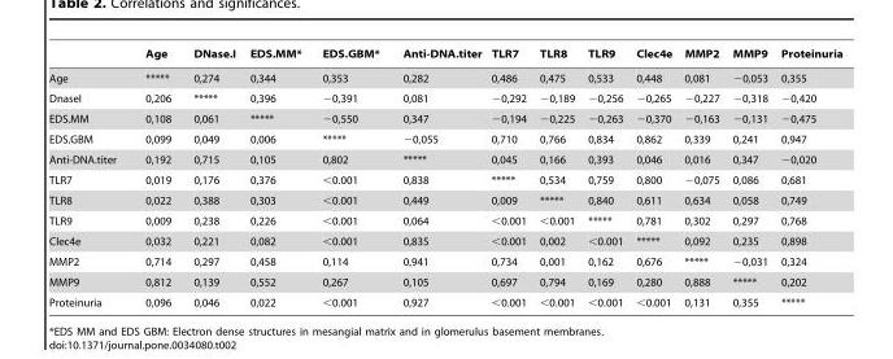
<table><thead><tr><td></td><td>Age</td><td>DNase.I</td><td>EDS.MM*</td><td>EDS.GBM*</td><td>Anti-DNA.titer</td><td>TLR7</td><td>TLR8</td><td>TLR9</td><td>Clec4e</td><td>MMP2</td><td>MMP9</td><td>Proteinuria</td></tr></thead><tbody><tr><td>Age</td><td>*****</td><td>0,274</td><td>0,344</td><td>0,353</td><td>0,282</td><td>0,486</td><td>0,475</td><td>0,533</td><td>0,448</td><td>0,081</td><td>−0,053</td><td>0,355</td></tr><tr><td>DnaseI</td><td>0,206</td><td>*****</td><td>0,396</td><td>−0,391</td><td>0,081</td><td>−0,292</td><td>−0,189</td><td>−0,256</td><td>−0,265</td><td>−0,227</td><td>−0,318</td><td>−0,420</td></tr><tr><td>EDS.MM</td><td>0,108</td><td>0,061</td><td>*****</td><td>−0,550</td><td>0,347</td><td>−0,194</td><td>−0,225</td><td>−0,263</td><td>−0,370</td><td>−0,163</td><td>−0,131</td><td>−0,475</td></tr><tr><td>EDS.GBM</td><td>0,099</td><td>0,049</td><td>0,006</td><td>*****</td><td>−0,055</td><td>0,710</td><td>0,766</td><td>0,834</td><td>0,862</td><td>0,339</td><td>0,241</td><td>0,947</td></tr><tr><td>Anti-DNA.titer</td><td>0,192</td><td>0,715</td><td>0,105</td><td>0,802</td><td>*****</td><td>0,045</td><td>0,166</td><td>0,393</td><td>0,046</td><td>0,016</td><td>0,347</td><td>−0,020</td></tr><tr><td>TLR7</td><td>0,019</td><td>0,176</td><td>0,376</td><td>&lt;0.001</td><td>0,838</td><td>*****</td><td>0,534</td><td>0,759</td><td>0,800</td><td>−0,075</td><td>0,086</td><td>0,681</td></tr><tr><td>TLR8</td><td>0,022</td><td>0,388</td><td>0,303</td><td>&lt;0.001</td><td>0,449</td><td>0,009</td><td>*****</td><td>0,840</td><td>0,611</td><td>0,634</td><td>0,058</td><td>0,749</td></tr><tr><td>TLR9</td><td>0,009</td><td>0,238</td><td>0,226</td><td>&lt;0.001</td><td>0,064</td><td>&lt;0.001</td><td>&lt;0.001</td><td>*****</td><td>0,781</td><td>0,302</td><td>0,297</td><td>0,768</td></tr><tr><td>Clec4e</td><td>0,032</td><td>0,221</td><td>0,082</td><td>&lt;0.001</td><td>0,835</td><td>&lt;0.001</td><td>0,002</td><td>&lt;0.001</td><td>*****</td><td>0,092</td><td>0,235</td><td>0,898</td></tr><tr><td>MMP2</td><td>0,714</td><td>0,297</td><td>0,458</td><td>0,114</td><td>0,941</td><td>0,734</td><td>0,001</td><td>0,162</td><td>0,676</td><td>*****</td><td>−0,031</td><td>0,324</td></tr><tr><td>MMP9</td><td>0,812</td><td>0,139</td><td>0,552</td><td>0,267</td><td>0,105</td><td>0,697</td><td>0,794</td><td>0,169</td><td>0,280</td><td>0,888</td><td>*****</td><td>0,202</td></tr><tr><td>Proteinuria</td><td>0,096</td><td>0,046</td><td>0,022</td><td>&lt;0.001</td><td>0,927</td><td>&lt;0.001</td><td>&lt;0.001</td><td>&lt;0.001</td><td>&lt;0.001</td><td>0,131</td><td>0,355</td><td>*****</td></tr></tbody></table>